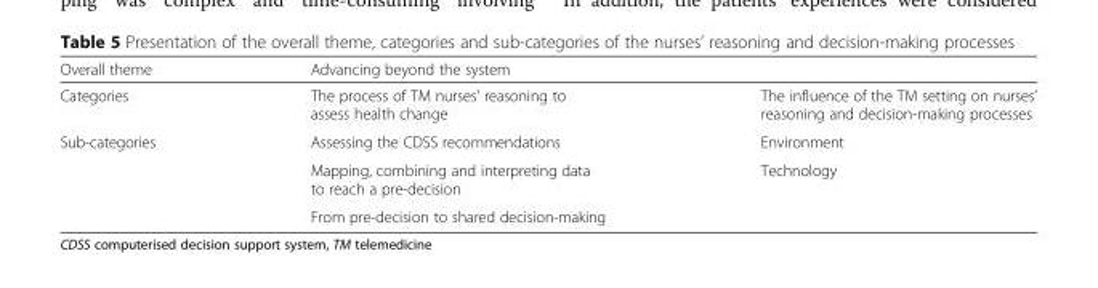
<table><thead><tr><td rowspan="2">Overall theme Categories</td><td colspan="2">Advancing beyond the system</td></tr><tr><td>The process of TM nurses’ reasoning to assess health change</td><td>The influence of the TM setting on nurses’ reasoning and decision-making processes</td></tr></thead><tbody><tr><td rowspan="3">Sub-categories</td><td>Assessing the CDSS recommendations</td><td>Environment</td></tr><tr><td>Mapping, combining and interpreting data to reach a pre-decision</td><td>Technology</td></tr><tr><td>From pre-decision to shared decision-making</td><td></td></tr></tbody></table>